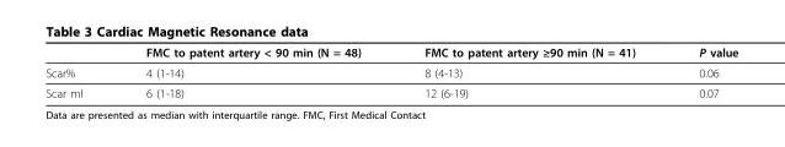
<table><thead><tr><td></td><td>FMC to patent artery &lt; 90 min (N = 48)</td><td>FMC to patent artery ≥90 min (N = 41)</td><td>P value</td></tr></thead><tbody><tr><td>Scar%</td><td>4 (1-14)</td><td>8 (4-13)</td><td>0.06</td></tr><tr><td>Scar ml</td><td>6 (1-18)</td><td>12 (6-19)</td><td>0.07</td></tr></tbody></table>